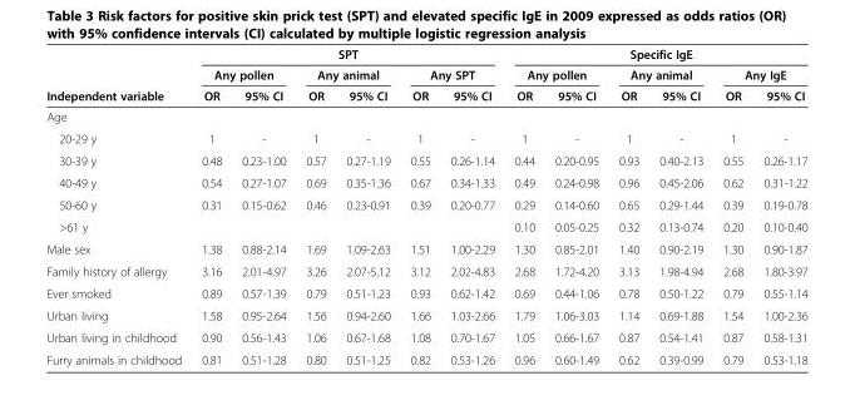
<table><thead><tr><td rowspan="3">Independent variable</td><td colspan="6">SPT</td><td colspan="6">Specific IgE</td></tr><tr><td colspan="2">Any pollen</td><td colspan="2">Any animal</td><td colspan="2">Any SPT</td><td colspan="2">Any pollen</td><td colspan="2">Any animal</td><td colspan="2">Any IgE</td></tr><tr><td>OR</td><td>95% CI</td><td>OR</td><td>95% CI</td><td>OR</td><td>95% CI</td><td>OR</td><td>95% CI</td><td>OR</td><td>95% CI</td><td>OR</td><td>95% CI</td></tr></thead><tbody><tr><td colspan="13">Age</td></tr><tr><td>20-29 y</td><td>1</td><td>-</td><td>1</td><td>-</td><td>1</td><td>-</td><td>1</td><td>-</td><td>1</td><td>-</td><td>1</td><td>-</td></tr><tr><td>30-39 y</td><td>0.48</td><td>0.23-1.00</td><td>0.57</td><td>0.27-1.19</td><td>0.55</td><td>0.26-1.14</td><td>0.44</td><td>0.20-0.95</td><td>0.93</td><td>0.40-2.13</td><td>0.55</td><td>0.26-1.17</td></tr><tr><td>40-49 y</td><td>0.54</td><td>0.27-1.07</td><td>0.69</td><td>0.35-1.36</td><td>0.67</td><td>0.34-1.33</td><td>0.49</td><td>0.24-0.98</td><td>0.96</td><td>0.45-2.06</td><td>0.62</td><td>0.31-1.22</td></tr><tr><td>50-60 y</td><td>0.31</td><td>0.15-0.62</td><td>0.46</td><td>0.23-0.91</td><td>0.39</td><td>0.20-0.77</td><td>0.29</td><td>0.14-0.60</td><td>0.65</td><td>0.29-1.44</td><td>0.39</td><td>0.19-0.78</td></tr><tr><td>&gt;61 y</td><td></td><td></td><td></td><td></td><td></td><td></td><td>0.10</td><td>0.05-0.25</td><td>0.32</td><td>0.13-0.74</td><td>0.20</td><td>0.10-0.40</td></tr><tr><td>Male sex</td><td>1.38</td><td>0.88-2.14</td><td>1.69</td><td>1.09-2.63</td><td>1.51</td><td>1.00-2.29</td><td>1.30</td><td>0.85-2.01</td><td>1.40</td><td>0.90-2.19</td><td>1.30</td><td>0.90-1.87</td></tr><tr><td>Family history of allergy</td><td>3.16</td><td>2.01-4.97</td><td>3.26</td><td>2.07-5.12</td><td>3.12</td><td>2.02-4.83</td><td>2.68</td><td>1.72-4.20</td><td>3.13</td><td>1.98-4.94</td><td>2.68</td><td>1.80-3.97</td></tr><tr><td>Ever smoked</td><td>0.89</td><td>0.57-1.39</td><td>0.79</td><td>0.51-1.23</td><td>0.93</td><td>0.62-1.42</td><td>0.69</td><td>0.44-1.06</td><td>0.78</td><td>0.50-1.22</td><td>0.79</td><td>0.55-1.14</td></tr><tr><td>Urban living</td><td>1.58</td><td>0.95-2.64</td><td>1.56</td><td>0.94-2.60</td><td>1.66</td><td>1.03-2.66</td><td>1.79</td><td>1.06-3.03</td><td>1.14</td><td>0.69-1.88</td><td>1.54</td><td>1.00-2.36</td></tr><tr><td>Urban living in childhood</td><td>0.90</td><td>0.56-1.43</td><td>1.06</td><td>0.67-1.68</td><td>1.08</td><td>0.70-1.67</td><td>1.05</td><td>0.66-1.67</td><td>0.87</td><td>0.54-1.41</td><td>0.87</td><td>0.58-1.31</td></tr><tr><td>Furry animals in childhood</td><td>0.81</td><td>0.51-1.28</td><td>0.80</td><td>0.51-1.25</td><td>0.82</td><td>0.53-1.26</td><td>0.96</td><td>0.60-1.49</td><td>0.62</td><td>0.39-0.99</td><td>0.79</td><td>0.53-1.18</td></tr></tbody></table>